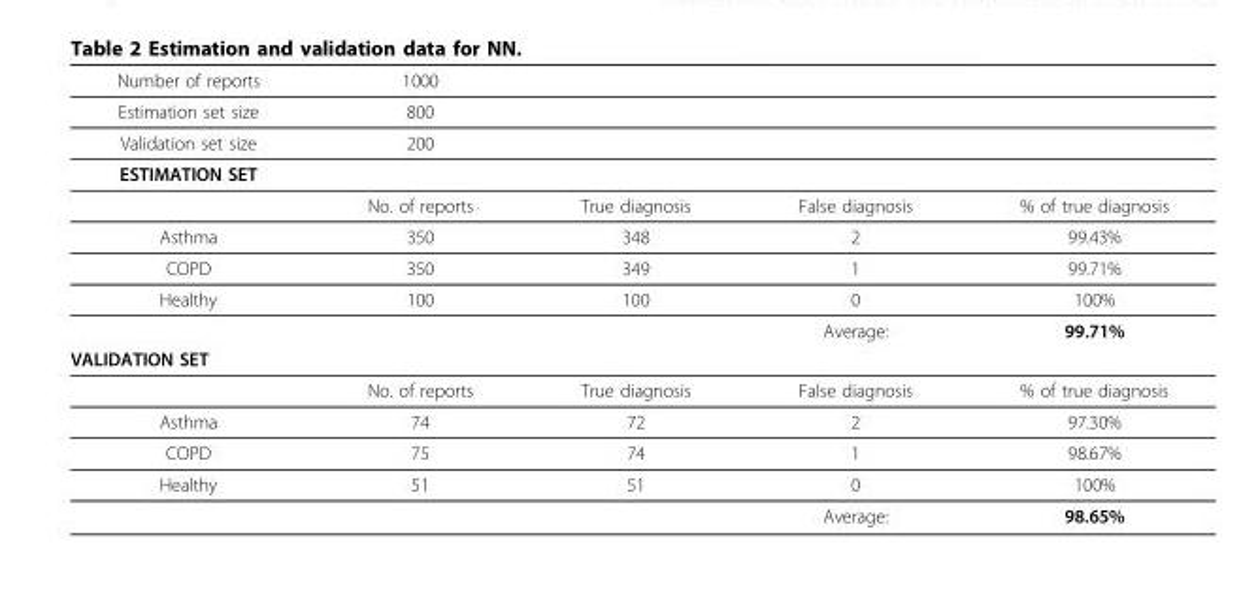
<table><thead><tr><td>Number of reports</td><td>1000</td><td></td><td></td><td></td></tr></thead><tbody><tr><td>Estimation set size</td><td>800</td><td></td><td></td><td></td></tr><tr><td>Validation set size</td><td>200</td><td></td><td></td><td></td></tr><tr><td colspan="5">ESTIMATION SET</td></tr><tr><td></td><td>No. of reports</td><td>True diagnosis</td><td>False diagnosis</td><td>% of true diagnosis</td></tr><tr><td>Asthma</td><td>350</td><td>348</td><td>2</td><td>99.43%</td></tr><tr><td>COPD</td><td>350</td><td>349</td><td>1</td><td>99.71%</td></tr><tr><td>Healthy</td><td>100</td><td>100</td><td>0</td><td>100%</td></tr><tr><td colspan="3"></td><td>Average:</td><td>99.71%</td></tr><tr><td colspan="5">VALIDATION SET</td></tr><tr><td></td><td>No. of reports</td><td>True diagnosis</td><td>False diagnosis</td><td>% of true diagnosis</td></tr><tr><td>Asthma</td><td>74</td><td>72</td><td>2</td><td>97.30%</td></tr><tr><td>COPD</td><td>75</td><td>74</td><td>1</td><td>98.67%</td></tr><tr><td>Healthy</td><td>51</td><td>51</td><td>0</td><td>100%</td></tr><tr><td colspan="3"></td><td>Average:</td><td>98.65%</td></tr></tbody></table>